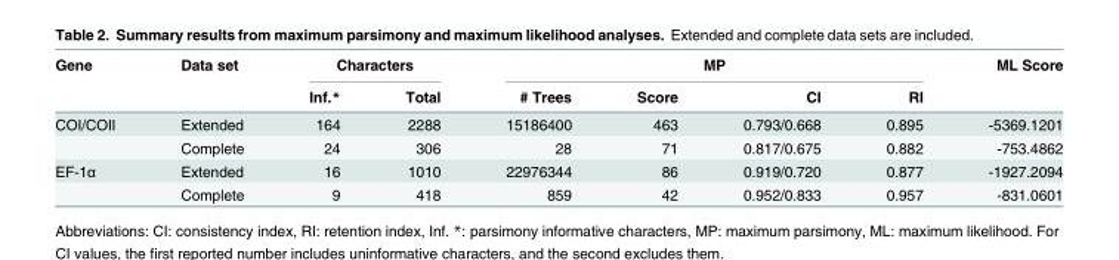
<table><thead><tr><td rowspan="2">Gene</td><td rowspan="2">Data set</td><td colspan="2">Characters</td><td colspan="4">MP</td><td rowspan="2">ML Score</td></tr><tr><td>Inf.*</td><td>Total</td><td># Trees</td><td>Score</td><td>CI</td><td>RI</td></tr></thead><tbody><tr><td rowspan="2">COI/COII</td><td>Extended</td><td>164</td><td>2288</td><td>15186400</td><td>463</td><td>0.793/0.668</td><td>0.895</td><td>-5369.1201</td></tr><tr><td>Complete</td><td>24</td><td>306</td><td>28</td><td>71</td><td>0.817/0.675</td><td>0.882</td><td>-753.4862</td></tr><tr><td rowspan="2">EF-1α</td><td>Extended</td><td>16</td><td>1010</td><td>22976344</td><td>86</td><td>0.919/0.720</td><td>0.877</td><td>-1927.2094</td></tr><tr><td>Complete</td><td>9</td><td>418</td><td>859</td><td>42</td><td>0.952/0.833</td><td>0.957</td><td>-831.0601</td></tr></tbody></table>